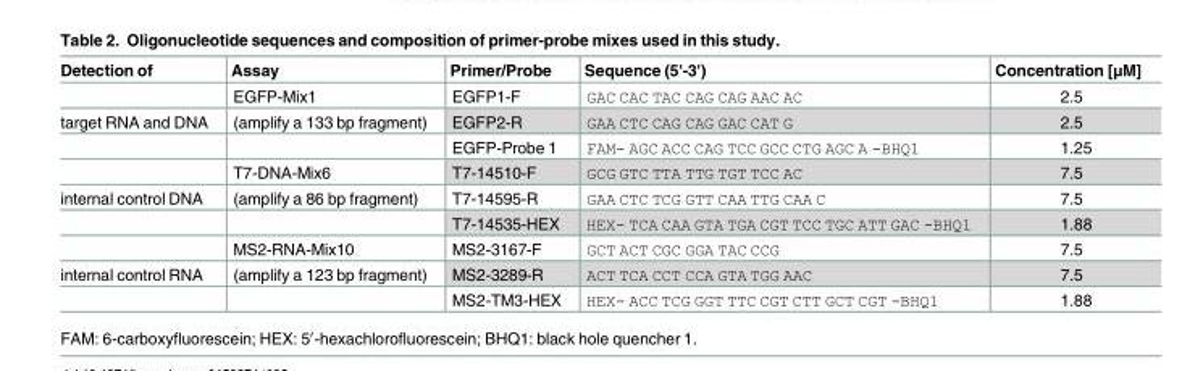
<table><thead><tr><td>Detection of</td><td>Assay</td><td>Primer/Probe</td><td>Sequence (5&#x27;-3&#x27;)</td><td>Concentration [μM]</td></tr></thead><tbody><tr><td></td><td>EGFP-Mix1</td><td>EGFP1-F</td><td>GAC CAC TAC CAG CAG AAC AC</td><td>2.5</td></tr><tr><td rowspan="3">target RNA and DNA</td><td>(amplify a 133 bp fragment)</td><td>EGFP2-R</td><td>GAA CTC CAG CAG GAC CAT G</td><td>2.5</td></tr><tr><td></td><td>EGFP-Probe 1</td><td>FAM- AGC ACC CAG TCC GCC CTG AGC A -BHQ1</td><td>1.25</td></tr><tr><td>T7-DNA-Mix6</td><td>T7-14510-F</td><td>GCG GTC TTA TTG TGT TCC AC</td><td>7.5</td></tr><tr><td rowspan="3">internal control DNA</td><td>(amplify a 86 bp fragment)</td><td>T7-14595-R</td><td>GAA CTC TCG GTT CAA TTG CAA C</td><td>7.5</td></tr><tr><td></td><td>T7-14535-HEX</td><td>HEX- TCA CAA GTA TGA CGT TCC TGC ATT GAC -BHQ1</td><td>1.88</td></tr><tr><td>MS2-RNA-Mix10</td><td>MS2-3167-F</td><td>GCT ACT CGC GGA TAC CCG</td><td>7.5</td></tr><tr><td rowspan="2">internal control RNA</td><td>(amplify a 123 bp fragment)</td><td>MS2-3289-R</td><td>ACT TCA CCT CCA GTA TGG AAC</td><td>7.5</td></tr><tr><td></td><td>MS2-TM3-HEX</td><td>HEX- ACC TCG GGT TTC CGT CTT GCT CGT -BHQ1</td><td>1.88</td></tr></tbody></table>